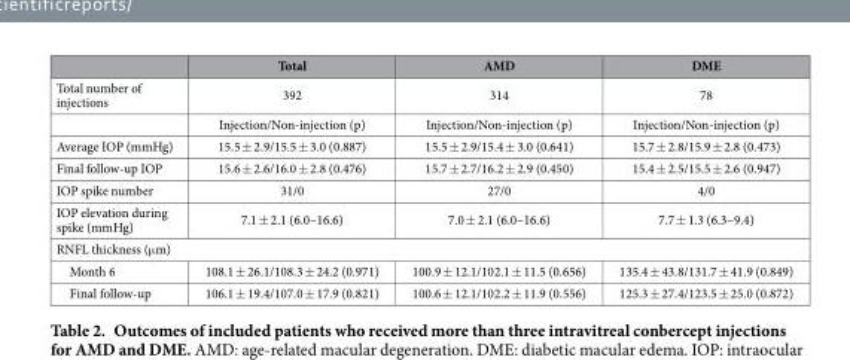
<table><thead><tr><td></td><td>Total</td><td>AMD</td><td>DME</td></tr></thead><tbody><tr><td rowspan="2">Total number of injections</td><td>392</td><td>314</td><td>78</td></tr><tr><td>Injection/Non-injection (p)</td><td>Injection/Non-injection (p)</td><td>Injection/Non-injection (p)</td></tr><tr><td>Average IOP (mmHg)</td><td>15.5 ± 2.9/15.5 ± 3.0 (0.887)</td><td>15.5 ± 2.9/15.4 ± 3.0 (0.641)</td><td>15.7 ± 2.8/15.9 ± 2.8 (0.473)</td></tr><tr><td>Final follow-up IOP</td><td>15.6 ± 2.6/16.0 ± 2.8 (0.476)</td><td>15.7 ± 2.7/16.2 ± 2.9 (0.450)</td><td>15.4 ± 2.5/15.5 ± 2.6 (0.947)</td></tr><tr><td>IOP spike number</td><td>31/0</td><td>27/0</td><td>4/0</td></tr><tr><td>IOP elevation during spike (mmHg)</td><td>7.1 ± 2.1 (6.0–16.6)</td><td>7.0 ± 2.1 (6.0–16.6)</td><td>7.7 ± 1.3 (6.3–9.4)</td></tr><tr><td colspan="4">RNFL thickness (μ m)</td></tr><tr><td>Month 6</td><td>108.1 ± 26.1/108.3 ± 24.2 (0.971)</td><td>100.9 ± 12.1/102.1 ± 11.5 (0.656)</td><td>135.4 ± 43.8/131.7 ± 41.9 (0.849)</td></tr><tr><td>Final follow-up</td><td>106.1 ± 19.4/107.0 ± 17.9 (0.821)</td><td>100.6 ± 12.1/102.2 ± 11.9 (0.556)</td><td>125.3 ± 27.4/123.5 ± 25.0 (0.872)</td></tr></tbody></table>